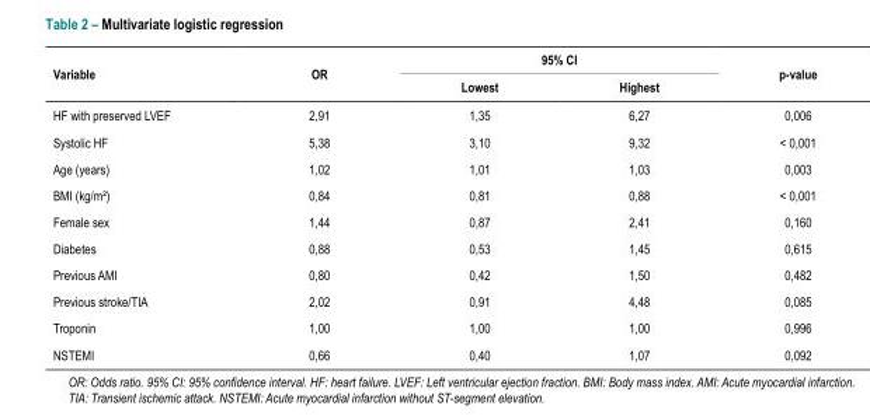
<table><thead><tr><td rowspan="2">Variable</td><td rowspan="2">OR</td><td colspan="2">95% CI</td><td rowspan="2">p-value</td></tr><tr><td>Lowest</td><td>Highest</td></tr></thead><tbody><tr><td>HF with preserved LVEF</td><td>2,91</td><td>1,35</td><td>6,27</td><td>0,006</td></tr><tr><td>Systolic HF</td><td>5,38</td><td>3,10</td><td>9,32</td><td>&lt; 0,001</td></tr><tr><td>Age (years)</td><td>1,02</td><td>1,01</td><td>1,03</td><td>0,003</td></tr><tr><td>BMI (kg/m²)</td><td>0,84</td><td>0,81</td><td>0,88</td><td>&lt; 0,001</td></tr><tr><td>Female sex</td><td>1,44</td><td>0,87</td><td>2,41</td><td>0,160</td></tr><tr><td>Diabetes</td><td>0,88</td><td>0,53</td><td>1,45</td><td>0,615</td></tr><tr><td>Previous AMI</td><td>0,80</td><td>0,42</td><td>1,50</td><td>0,482</td></tr><tr><td>Previous stroke/TIA</td><td>2,02</td><td>0,91</td><td>4,48</td><td>0,085</td></tr><tr><td>Troponin</td><td>1,00</td><td>1,00</td><td>1,00</td><td>0,996</td></tr><tr><td>NSTEMI</td><td>0,66</td><td>0,40</td><td>1,07</td><td>0,092</td></tr></tbody></table>